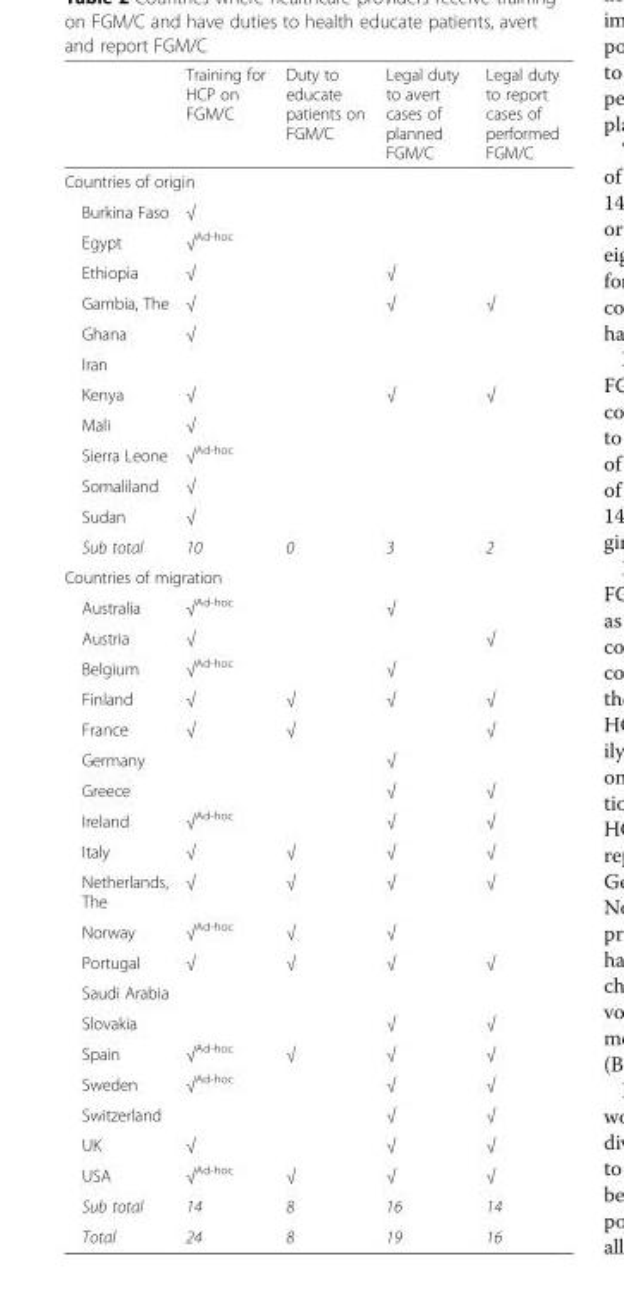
<table><thead><tr><td></td><td>Training for HCP on FGM/C</td><td>Duty to educate patients on FGM/C</td><td>Legal duty to avert cases of planned FGM/C</td><td>Legal duty to report cases of performed FGM/C</td></tr></thead><tbody><tr><td colspan="5">Countries of origin</td></tr><tr><td>Burkina Faso</td><td>√</td><td></td><td></td><td></td></tr><tr><td>Egypt</td><td>√<sup>Ad-hoc</sup></td><td></td><td></td><td></td></tr><tr><td>Ethiopia</td><td>√</td><td></td><td>√</td><td></td></tr><tr><td>Gambia, The</td><td>√</td><td></td><td>√</td><td>√</td></tr><tr><td>Ghana</td><td>√</td><td></td><td></td><td></td></tr><tr><td colspan="5">Iran</td></tr><tr><td>Kenya</td><td>√</td><td></td><td>√</td><td>√</td></tr><tr><td>Mali</td><td>√</td><td></td><td></td><td></td></tr><tr><td>Sierra Leone</td><td>√<sup>Ad-hoc</sup></td><td></td><td></td><td></td></tr><tr><td>Somaliland</td><td>√</td><td></td><td></td><td></td></tr><tr><td>Sudan</td><td>√</td><td></td><td></td><td></td></tr><tr><td>Sub total</td><td>10</td><td>0</td><td>3</td><td>2</td></tr><tr><td colspan="5">Countries of migration</td></tr><tr><td>Australia</td><td>√<sup>Ad-hoc</sup></td><td></td><td>√</td><td></td></tr><tr><td>Austria</td><td>√</td><td></td><td></td><td>√</td></tr><tr><td>Belgium</td><td>√<sup>Ad-hoc</sup></td><td></td><td>√</td><td></td></tr><tr><td>Finland</td><td>√</td><td>√</td><td>√</td><td>√</td></tr><tr><td>France</td><td>√</td><td>√</td><td></td><td>√</td></tr><tr><td>Germany</td><td></td><td></td><td>√</td><td></td></tr><tr><td>Greece</td><td></td><td></td><td>√</td><td>√</td></tr><tr><td>Ireland</td><td>√<sup>Ad-hoc</sup></td><td></td><td>√</td><td>√</td></tr><tr><td>Italy</td><td>√</td><td>√</td><td>√</td><td>√</td></tr><tr><td>Netherlands, The</td><td>√</td><td>√</td><td>√</td><td>√</td></tr><tr><td>Norway</td><td>√<sup>Ad-hoc</sup></td><td>√</td><td>√</td><td></td></tr><tr><td>Portugal</td><td>√</td><td>√</td><td>√</td><td>√</td></tr><tr><td colspan="5">Saudi Arabia</td></tr><tr><td>Slovakia</td><td></td><td></td><td>√</td><td>√</td></tr><tr><td>Spain</td><td>√<sup>Ad-hoc</sup></td><td>√</td><td>√</td><td>√</td></tr><tr><td>Sweden</td><td>√<sup>Ad-hoc</sup></td><td></td><td>√</td><td>√</td></tr><tr><td>Switzerland</td><td></td><td></td><td>√</td><td>√</td></tr><tr><td>UK</td><td>√</td><td></td><td>√</td><td>√</td></tr><tr><td>USA</td><td>√<sup>Ad-hoc</sup></td><td>√</td><td>√</td><td>√</td></tr><tr><td>Sub total</td><td>14</td><td>8</td><td>16</td><td>14</td></tr><tr><td>Total</td><td>24</td><td>8</td><td>19</td><td>16</td></tr></tbody></table>